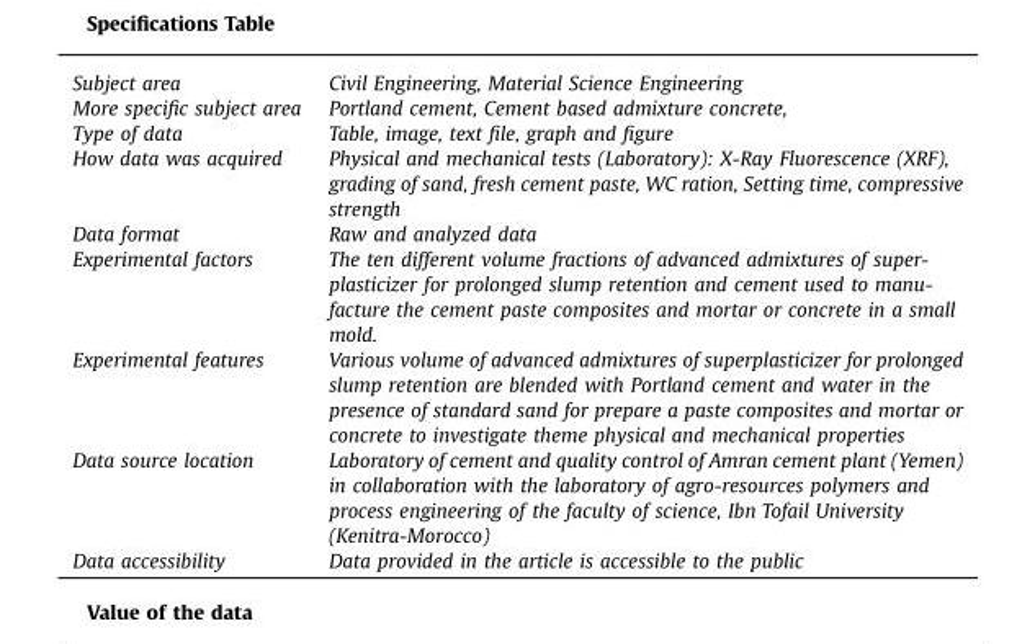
<table><tbody><tr><td>Subject area</td><td>Civil Engineering, Material Science Engineering</td></tr><tr><td>More specific subject area</td><td>Portland cement, Cement based admixture concrete,</td></tr><tr><td>Type of data</td><td>Table, image, text file, graph and figure</td></tr><tr><td>How data was acquired</td><td>Physical and mechanical tests (Laboratory): X-Ray Fluorescence (XRF), grading of sand, fresh cement paste, WC ration, Setting time, compressive strength</td></tr><tr><td>Data format</td><td>Raw and analyzed data</td></tr><tr><td>Experimental factors</td><td>The ten different volume fractions of advanced admixtures of super- plasticizer for prolonged slump retention and cement used to manu- facture the cement paste composites and mortar or concrete in a small mold.</td></tr><tr><td>Experimental features</td><td>Various volume of advanced admixtures of superplasticizer for prolonged slump retention are blended with Portland cement and water in the presence of standard sand for prepare a paste composites and mortar or concrete to investigate theme physical and mechanical properties</td></tr><tr><td>Data source location</td><td>Laboratory of cement and quality control of Amran cement plant (Yemen) in collaboration with the laboratory of agro-resources polymers and process engineering of the faculty of science, Ibn Tofail University (Kenitra-Morocco)</td></tr><tr><td>Data accessibility</td><td>Data provided in the article is accessible to the public</td></tr></tbody></table>